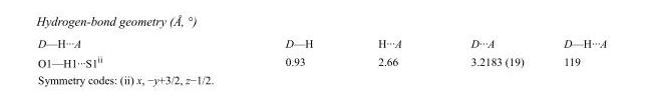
<table><tbody><tr><td>D—H···A</td><td>D—H</td><td>H···A</td><td>D···A</td><td>D—H···A</td></tr><tr><td>O1—H1···S1<sup>ii</sup></td><td>0.93</td><td>2.66</td><td>3.2183 (19)</td><td>119</td></tr></tbody></table>